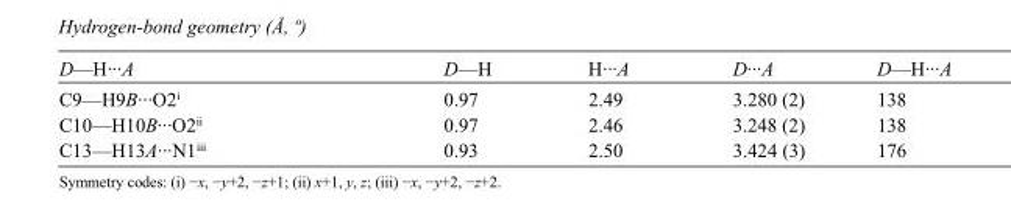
<table><tbody><tr><td>D—H···A</td><td>D—H</td><td>H···A</td><td>D···A</td><td>D—H···A</td></tr><tr><td>C9—H9B···O2<sup>i</sup></td><td>0.97</td><td>2.49</td><td>3.280 (2)</td><td>138</td></tr><tr><td>C10—H10B···O2<sup>ii</sup></td><td>0.97</td><td>2.46</td><td>3.248 (2)</td><td>138</td></tr><tr><td>C13—H13A···N1<sup>iii</sup></td><td>0.93</td><td>2.50</td><td>3.424 (3)</td><td>176</td></tr></tbody></table>